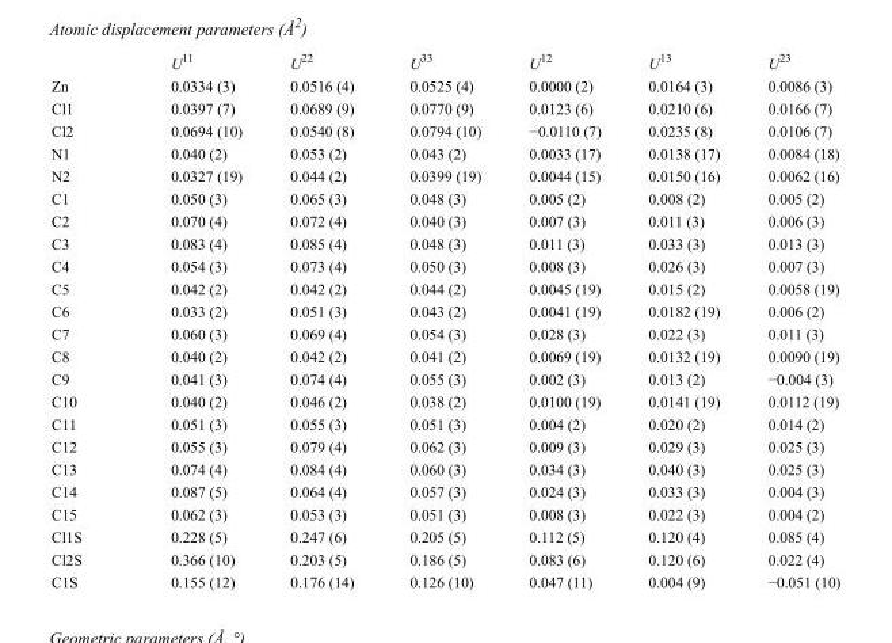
<table><thead><tr><td></td><td>U<sup>11</sup></td><td>U<sup>22</sup></td><td>U<sup>33</sup></td><td>U<sup>12</sup></td><td>U<sup>13</sup></td><td>U<sup>23</sup></td></tr></thead><tbody><tr><td>Zn</td><td>0.0334 (3)</td><td>0.0516 (4)</td><td>0.0525 (4)</td><td>0.0000 (2)</td><td>0.0164 (3)</td><td>0.0086 (3)</td></tr><tr><td>Cl1</td><td>0.0397 (7)</td><td>0.0689 (9)</td><td>0.0770 (9)</td><td>0.0123 (6)</td><td>0.0210 (6)</td><td>0.0166 (7)</td></tr><tr><td>Cl2</td><td>0.0694 (10)</td><td>0.0540 (8)</td><td>0.0794 (10)</td><td>−0.0110 (7)</td><td>0.0235 (8)</td><td>0.0106 (7)</td></tr><tr><td>N1</td><td>0.040 (2)</td><td>0.053 (2)</td><td>0.043 (2)</td><td>0.0033 (17)</td><td>0.0138 (17)</td><td>0.0084 (18)</td></tr><tr><td>N2</td><td>0.0327 (19)</td><td>0.044 (2)</td><td>0.0399 (19)</td><td>0.0044 (15)</td><td>0.0150 (16)</td><td>0.0062 (16)</td></tr><tr><td>C1</td><td>0.050 (3)</td><td>0.065 (3)</td><td>0.048 (3)</td><td>0.005 (2)</td><td>0.008 (2)</td><td>0.005 (2)</td></tr><tr><td>C2</td><td>0.070 (4)</td><td>0.072 (4)</td><td>0.040 (3)</td><td>0.007 (3)</td><td>0.011 (3)</td><td>0.006 (3)</td></tr><tr><td>C3</td><td>0.083 (4)</td><td>0.085 (4)</td><td>0.048 (3)</td><td>0.011 (3)</td><td>0.033 (3)</td><td>0.013 (3)</td></tr><tr><td>C4</td><td>0.054 (3)</td><td>0.073 (4)</td><td>0.050 (3)</td><td>0.008 (3)</td><td>0.026 (3)</td><td>0.007 (3)</td></tr><tr><td>C5</td><td>0.042 (2)</td><td>0.042 (2)</td><td>0.044 (2)</td><td>0.0045 (19)</td><td>0.015 (2)</td><td>0.0058 (19)</td></tr><tr><td>C6</td><td>0.033 (2)</td><td>0.051 (3)</td><td>0.043 (2)</td><td>0.0041 (19)</td><td>0.0182 (19)</td><td>0.006 (2)</td></tr><tr><td>C7</td><td>0.060 (3)</td><td>0.069 (4)</td><td>0.054 (3)</td><td>0.028 (3)</td><td>0.022 (3)</td><td>0.011 (3)</td></tr><tr><td>C8</td><td>0.040 (2)</td><td>0.042 (2)</td><td>0.041 (2)</td><td>0.0069 (19)</td><td>0.0132 (19)</td><td>0.0090 (19)</td></tr><tr><td>C9</td><td>0.041 (3)</td><td>0.074 (4)</td><td>0.055 (3)</td><td>0.002 (3)</td><td>0.013 (2)</td><td>−0.004 (3)</td></tr><tr><td>C10</td><td>0.040 (2)</td><td>0.046 (2)</td><td>0.038 (2)</td><td>0.0100 (19)</td><td>0.0141 (19)</td><td>0.0112 (19)</td></tr><tr><td>C11</td><td>0.051 (3)</td><td>0.055 (3)</td><td>0.051 (3)</td><td>0.004 (2)</td><td>0.020 (2)</td><td>0.014 (2)</td></tr><tr><td>C12</td><td>0.055 (3)</td><td>0.079 (4)</td><td>0.062 (3)</td><td>0.009 (3)</td><td>0.029 (3)</td><td>0.025 (3)</td></tr><tr><td>C13</td><td>0.074 (4)</td><td>0.084 (4)</td><td>0.060 (3)</td><td>0.034 (3)</td><td>0.040 (3)</td><td>0.025 (3)</td></tr><tr><td>C14</td><td>0.087 (5)</td><td>0.064 (4)</td><td>0.057 (3)</td><td>0.024 (3)</td><td>0.033 (3)</td><td>0.004 (3)</td></tr><tr><td>C15</td><td>0.062 (3)</td><td>0.053 (3)</td><td>0.051 (3)</td><td>0.008 (3)</td><td>0.022 (3)</td><td>0.004 (2)</td></tr><tr><td>Cl1S</td><td>0.228 (5)</td><td>0.247 (6)</td><td>0.205 (5)</td><td>0.112 (5)</td><td>0.120 (4)</td><td>0.085 (4)</td></tr><tr><td>Cl2S</td><td>0.366 (10)</td><td>0.203 (5)</td><td>0.186 (5)</td><td>0.083 (6)</td><td>0.120 (6)</td><td>0.022 (4)</td></tr><tr><td>C1S</td><td>0.155 (12)</td><td>0.176 (14)</td><td>0.126 (10)</td><td>0.047 (11)</td><td>0.004 (9)</td><td>−0.051 (10)</td></tr></tbody></table>